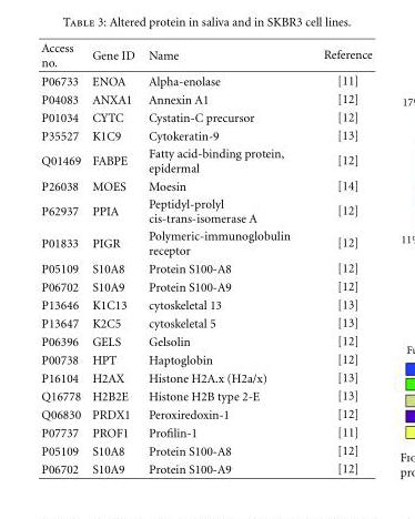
<table><thead><tr><td>Access no.</td><td>Gene ID</td><td>Name</td><td>Reference</td></tr></thead><tbody><tr><td>P06733</td><td>ENOA</td><td>Alpha-enolase</td><td>[11]</td></tr><tr><td>P04083</td><td>ANXA1</td><td>Annexin A1</td><td>[12]</td></tr><tr><td>P01034</td><td>CYTC</td><td>Cystatin-C precursor</td><td>[12]</td></tr><tr><td>P35527</td><td>K1C9</td><td>Cytokeratin-9</td><td>[13]</td></tr><tr><td>Q01469</td><td>FABPE</td><td>Fatty acid-binding protein, epidermal</td><td>[12]</td></tr><tr><td>P26038</td><td>MOES</td><td>Moesin</td><td>[14]</td></tr><tr><td>P62937</td><td>PPIA</td><td>Peptidyl-prolyl cis-trans-isomerase A</td><td>[12]</td></tr><tr><td>P01833</td><td>PIGR</td><td>Polymeric-immunoglobulin receptor</td><td>[12]</td></tr><tr><td>P05109</td><td>S10A8</td><td>Protein S100-A8</td><td>[12]</td></tr><tr><td>P06702</td><td>S10A9</td><td>Protein S100-A9</td><td>[12]</td></tr><tr><td>P13646</td><td>K1C13</td><td>cytoskeletal 13</td><td>[13]</td></tr><tr><td>P13647</td><td>K2C5</td><td>cytoskeletal 5</td><td>[13]</td></tr><tr><td>P06396</td><td>GELS</td><td>Gelsolin</td><td>[12]</td></tr><tr><td>P00738</td><td>HPT</td><td>Haptoglobin</td><td>[12]</td></tr><tr><td>P16104</td><td>H2AX</td><td>Histone H2A.x (H2a/x)</td><td>[13]</td></tr><tr><td>Q16778</td><td>H2B2E</td><td>Histone H2B type 2-E</td><td>[13]</td></tr><tr><td>Q06830</td><td>PRDX1</td><td>Peroxiredoxin-1</td><td>[12]</td></tr><tr><td>P07737</td><td>PROF1</td><td>Profilin-1</td><td>[11]</td></tr><tr><td>P05109</td><td>S10A8</td><td>Protein S100-A8</td><td>[12]</td></tr><tr><td>P06702</td><td>S10A9</td><td>Protein S100-A9</td><td>[12]</td></tr></tbody></table>